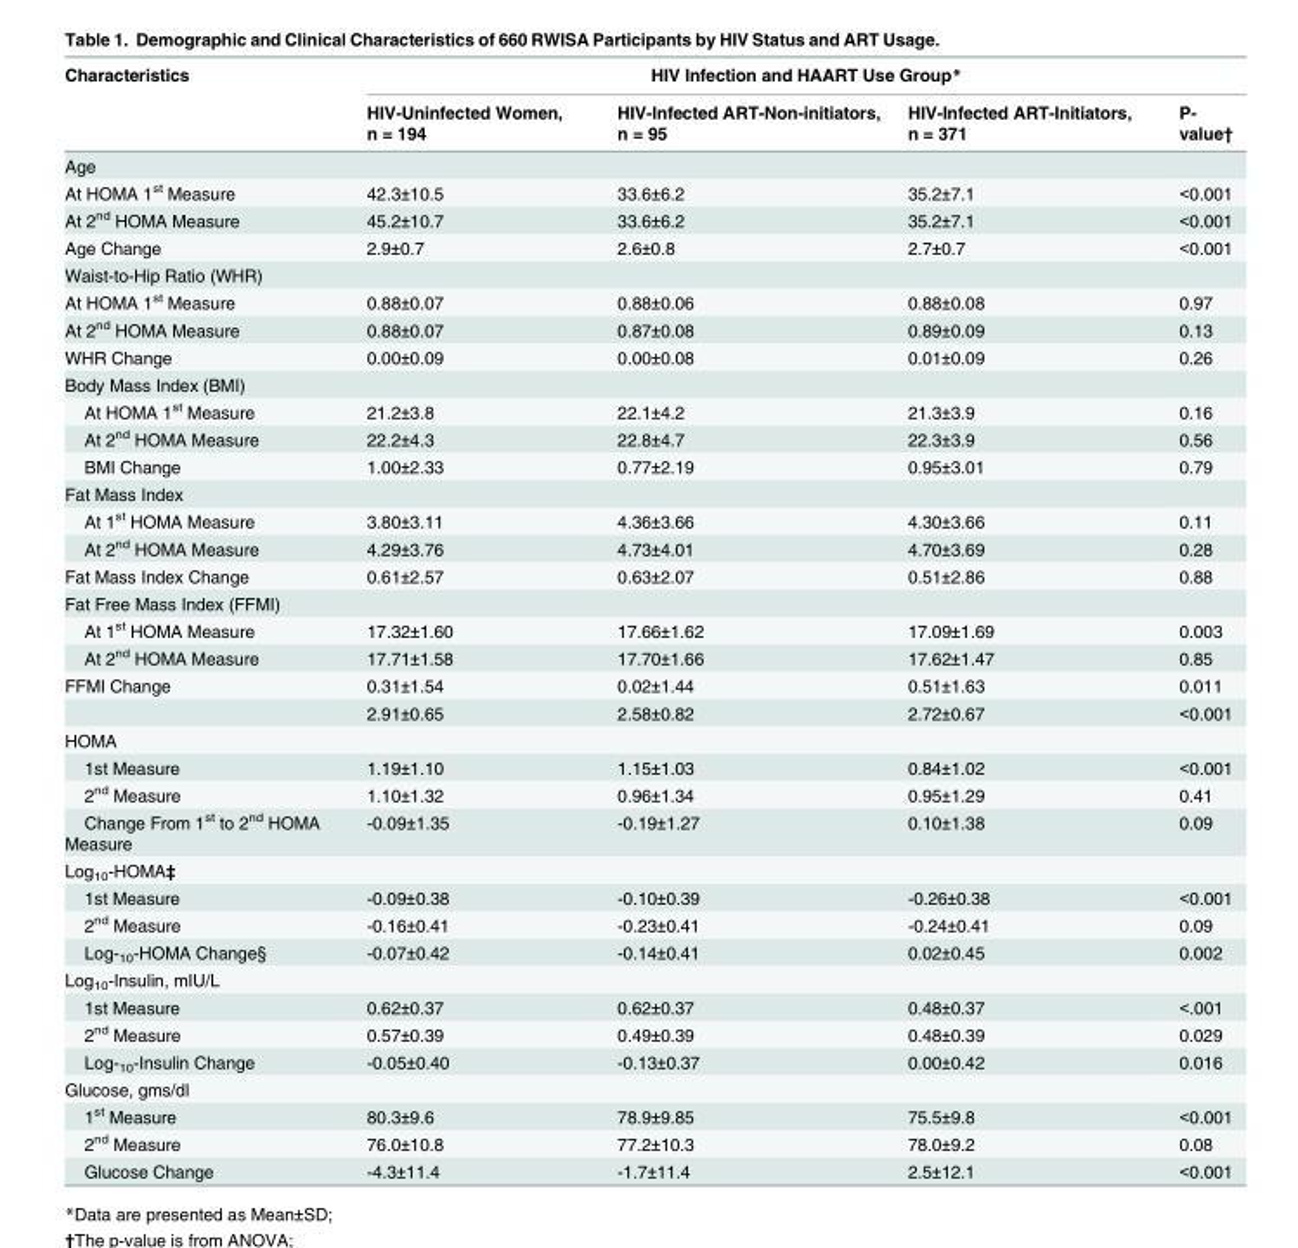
<table><thead><tr><td rowspan="2">Characteristics</td><td colspan="4">HIV Infection and HAART Use Group*</td></tr><tr><td>HIV-Uninfected Women, n = 194</td><td>HIV-Infected ART-Non-initiators, n = 95</td><td>HIV-Infected ART-Initiators, n = 371</td><td>P- value†</td></tr></thead><tbody><tr><td colspan="5">Age</td></tr><tr><td>At HOMA 1<sup>st</sup> Measure</td><td>42.3±10.5</td><td>33.6±6.2</td><td>35.2±7.1</td><td>&lt;0.001</td></tr><tr><td>At 2<sup>nd</sup> HOMA Measure</td><td>45.2±10.7</td><td>33.6±6.2</td><td>35.2±7.1</td><td>&lt;0.001</td></tr><tr><td>Age Change</td><td>2.9±0.7</td><td>2.6±0.8</td><td>2.7±0.7</td><td>&lt;0.001</td></tr><tr><td colspan="5">Waist-to-Hip Ratio (WHR)</td></tr><tr><td>At HOMA 1<sup>st</sup> Measure</td><td>0.88±0.07</td><td>0.88±0.06</td><td>0.88±0.08</td><td>0.97</td></tr><tr><td>At 2<sup>nd</sup> HOMA Measure</td><td>0.88±0.07</td><td>0.87±0.08</td><td>0.89±0.09</td><td>0.13</td></tr><tr><td>WHR Change</td><td>0.00±0.09</td><td>0.00±0.08</td><td>0.01±0.09</td><td>0.26</td></tr><tr><td colspan="5">Body Mass Index (BMI)</td></tr><tr><td>At HOMA 1<sup>st</sup> Measure</td><td>21.2±3.8</td><td>22.1±4.2</td><td>21.3±3.9</td><td>0.16</td></tr><tr><td>At 2<sup>nd</sup> HOMA Measure</td><td>22.2±4.3</td><td>22.8±4.7</td><td>22.3±3.9</td><td>0.56</td></tr><tr><td>BMI Change</td><td>1.00±2.33</td><td>0.77±2.19</td><td>0.95±3.01</td><td>0.79</td></tr><tr><td colspan="5">Fat Mass Index</td></tr><tr><td>At 1<sup>st</sup> HOMA Measure</td><td>3.80±3.11</td><td>4.36±3.66</td><td>4.30±3.66</td><td>0.11</td></tr><tr><td>At 2<sup>nd</sup> HOMA Measure</td><td>4.29±3.76</td><td>4.73±4.01</td><td>4.70±3.69</td><td>0.28</td></tr><tr><td>Fat Mass Index Change</td><td>0.61±2.57</td><td>0.63±2.07</td><td>0.51±2.86</td><td>0.88</td></tr><tr><td colspan="5">Fat Free Mass Index (FFMI)</td></tr><tr><td>At 1<sup>st</sup> HOMA Measure</td><td>17.32±1.60</td><td>17.66±1.62</td><td>17.09±1.69</td><td>0.003</td></tr><tr><td>At 2<sup>nd</sup> HOMA Measure</td><td>17.71±1.58</td><td>17.70±1.66</td><td>17.62±1.47</td><td>0.85</td></tr><tr><td rowspan="2">FFMI Change</td><td>0.31±1.54</td><td>0.02±1.44</td><td>0.51±1.63</td><td>0.011</td></tr><tr><td>2.91±0.65</td><td>2.58±0.82</td><td>2.72±0.67</td><td>&lt;0.001</td></tr><tr><td colspan="5">HOMA</td></tr><tr><td>1st Measure</td><td>1.19±1.10</td><td>1.15±1.03</td><td>0.84±1.02</td><td>&lt;0.001</td></tr><tr><td>2<sup>nd</sup> Measure</td><td>1.10±1.32</td><td>0.96±1.34</td><td>0.95±1.29</td><td>0.41</td></tr><tr><td>Change From 1<sup>st</sup> to 2<sup>nd</sup> HOMA Measure</td><td>-0.09±1.35</td><td>-0.19±1.27</td><td>0.10±1.38</td><td>0.09</td></tr><tr><td colspan="5">Log<sub>10</sub>-HOMA‡</td></tr><tr><td>1st Measure</td><td>-0.09±0.38</td><td>-0.10±0.39</td><td>-0.26±0.38</td><td>&lt;0.001</td></tr><tr><td>2<sup>nd</sup> Measure</td><td>-0.16±0.41</td><td>-0.23±0.41</td><td>-0.24±0.41</td><td>0.09</td></tr><tr><td>Log-<sub>10</sub>-HOMA Change§</td><td>-0.07±0.42</td><td>-0.14±0.41</td><td>0.02±0.45</td><td>0.002</td></tr><tr><td colspan="5">Log<sub>10</sub>-Insulin, mIU/L</td></tr><tr><td>1st Measure</td><td>0.62±0.37</td><td>0.62±0.37</td><td>0.48±0.37</td><td>&lt;.001</td></tr><tr><td>2<sup>nd</sup> Measure</td><td>0.57±0.39</td><td>0.49±0.39</td><td>0.48±0.39</td><td>0.029</td></tr><tr><td>Log-<sub>10</sub>-Insulin Change</td><td>-0.05±0.40</td><td>-0.13±0.37</td><td>0.00±0.42</td><td>0.016</td></tr><tr><td colspan="5">Glucose, gms/dl</td></tr><tr><td>1<sup>st</sup> Measure</td><td>80.3±9.6</td><td>78.9±9.85</td><td>75.5±9.8</td><td>&lt;0.001</td></tr><tr><td>2<sup>nd</sup> Measure</td><td>76.0±10.8</td><td>77.2±10.3</td><td>78.0±9.2</td><td>0.08</td></tr><tr><td>Glucose Change</td><td>-4.3±11.4</td><td>-1.7±11.4</td><td>2.5±12.1</td><td>&lt;0.001</td></tr></tbody></table>